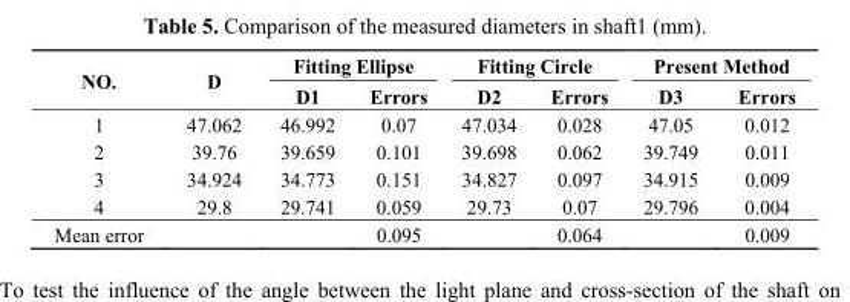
<table><thead><tr><td rowspan="2">NO.</td><td rowspan="2">D</td><td colspan="2">Fitting Ellipse</td><td colspan="2">Fitting Circle</td><td colspan="2">Present Method</td></tr><tr><td>D1</td><td>Errors</td><td>D2</td><td>Errors</td><td>D3</td><td>Errors</td></tr></thead><tbody><tr><td>1</td><td>47.062</td><td>46.992</td><td>0.07</td><td>47.034</td><td>0.028</td><td>47.05</td><td>0.012</td></tr><tr><td>2</td><td>39.76</td><td>39.659</td><td>0.101</td><td>39.698</td><td>0.062</td><td>39.749</td><td>0.011</td></tr><tr><td>3</td><td>34.924</td><td>34.773</td><td>0.151</td><td>34.827</td><td>0.097</td><td>34.915</td><td>0.009</td></tr><tr><td>4</td><td>29.8</td><td>29.741</td><td>0.059</td><td>29.73</td><td>0.07</td><td>29.796</td><td>0.004</td></tr><tr><td>Mean error</td><td></td><td></td><td>0.095</td><td></td><td>0.064</td><td></td><td>0.009</td></tr></tbody></table>